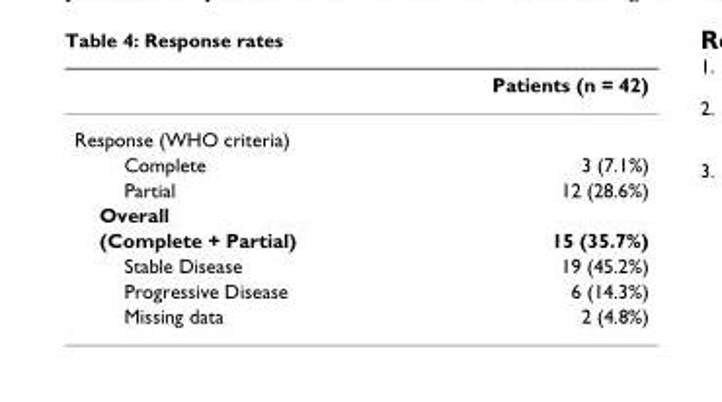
<table><thead><tr><td></td><td>Patients (n = 42)</td></tr></thead><tbody><tr><td colspan="2">Response (WHO criteria)</td></tr><tr><td>Complete</td><td>3 (7.1%)</td></tr><tr><td>Partial</td><td>12 (28.6%)</td></tr><tr><td colspan="2">Overall</td></tr><tr><td>(Complete + Partial)</td><td>15 (35.7%)</td></tr><tr><td>Stable Disease</td><td>19 (45.2%)</td></tr><tr><td>Progressive Disease</td><td>6 (14.3%)</td></tr><tr><td>Missing data</td><td>2 (4.8%)</td></tr></tbody></table>